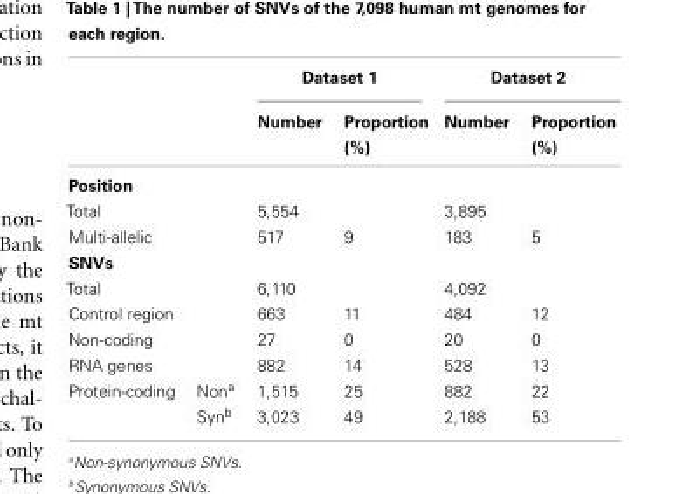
<table><thead><tr><td rowspan="2"></td><td rowspan="2"></td><td colspan="2">Dataset 1</td><td colspan="2">Dataset 2</td></tr><tr><td>Number</td><td>Proportion (%)</td><td>Number</td><td>Proportion (%)</td></tr></thead><tbody><tr><td colspan="6">Position</td></tr><tr><td>Total</td><td></td><td>5,554</td><td></td><td>3,895</td><td></td></tr><tr><td>Multi-allelic</td><td></td><td>517</td><td>9</td><td>183</td><td>5</td></tr><tr><td colspan="6">SNVs</td></tr><tr><td>Total</td><td></td><td>6,110</td><td></td><td>4,092</td><td></td></tr><tr><td>Control region</td><td></td><td>663</td><td>11</td><td>484</td><td>12</td></tr><tr><td>Non-coding</td><td></td><td>27</td><td>0</td><td>20</td><td>0</td></tr><tr><td>RNA genes</td><td></td><td>882</td><td>14</td><td>528</td><td>13</td></tr><tr><td rowspan="2">Protein-coding</td><td>Non<sup>a</sup></td><td>1,515</td><td>25</td><td>882</td><td>22</td></tr><tr><td>Syn<sup>b</sup></td><td>3,023</td><td>49</td><td>2,188</td><td>53</td></tr></tbody></table>